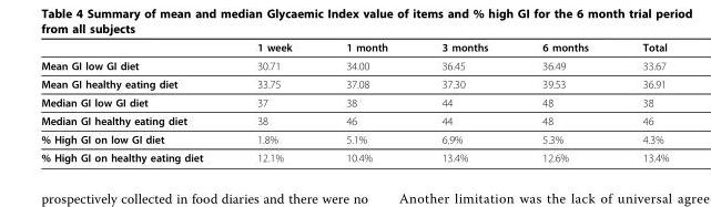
<table><thead><tr><td></td><td>1 week</td><td>1 month</td><td>3 months</td><td>6 months</td><td>Total</td></tr></thead><tbody><tr><td>Mean GI low GI diet</td><td>30.71</td><td>34.00</td><td>36.45</td><td>36.49</td><td>33.67</td></tr><tr><td>Mean GI healthy eating diet</td><td>33.75</td><td>37.08</td><td>37.30</td><td>39.53</td><td>36.91</td></tr><tr><td>Median GI low GI diet</td><td>37</td><td>38</td><td>44</td><td>48</td><td>38</td></tr><tr><td>Median GI healthy eating diet</td><td>38</td><td>46</td><td>44</td><td>48</td><td>46</td></tr><tr><td>% High GI on low GI diet</td><td>1.8%</td><td>5.1%</td><td>6.9%</td><td>5.3%</td><td>4.3%</td></tr><tr><td>% High GI on healthy eating diet</td><td>12.1%</td><td>10.4%</td><td>13.4%</td><td>12.6%</td><td>13.4%</td></tr></tbody></table>